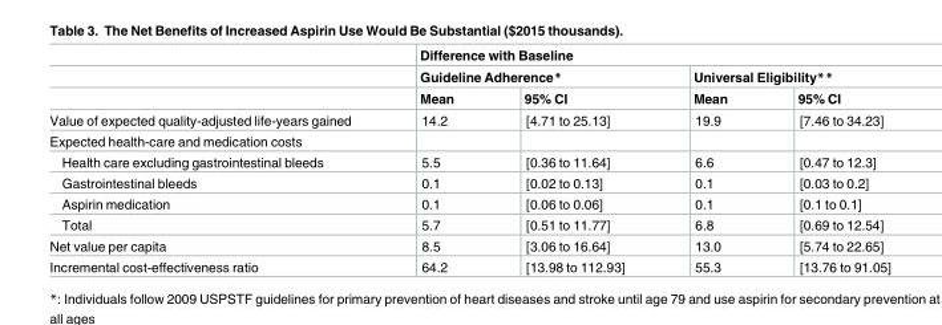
<table><thead><tr><td rowspan="3"></td><td colspan="4">Difference with Baseline</td></tr><tr><td colspan="2">Guideline Adherence*</td><td colspan="2">Universal Eligibility**</td></tr><tr><td>Mean</td><td>95% CI</td><td>Mean</td><td>95% CI</td></tr></thead><tbody><tr><td>Value of expected quality-adjusted life-years gained</td><td>14.2</td><td>[4.71 to 25.13]</td><td>19.9</td><td>[7.46 to 34.23]</td></tr><tr><td colspan="5">Expected health-care and medication costs</td></tr><tr><td>Health care excluding gastrointestinal bleeds</td><td>5.5</td><td>[0.36 to 11.64]</td><td>6.6</td><td>[0.47 to 12.3]</td></tr><tr><td>Gastrointestinal bleeds</td><td>0.1</td><td>[0.02 to 0.13]</td><td>0.1</td><td>[0.03 to 0.2]</td></tr><tr><td>Aspirin medication</td><td>0.1</td><td>[0.06 to 0.06]</td><td>0.1</td><td>[0.1 to 0.1]</td></tr><tr><td>Total</td><td>5.7</td><td>[0.51 to 11.77]</td><td>6.8</td><td>[0.69 to 12.54]</td></tr><tr><td>Net value per capita</td><td>8.5</td><td>[3.06 to 16.64]</td><td>13.0</td><td>[5.74 to 22.65]</td></tr><tr><td>Incremental cost-effectiveness ratio</td><td>64.2</td><td>[13.98 to 112.93]</td><td>55.3</td><td>[13.76 to 91.05]</td></tr></tbody></table>